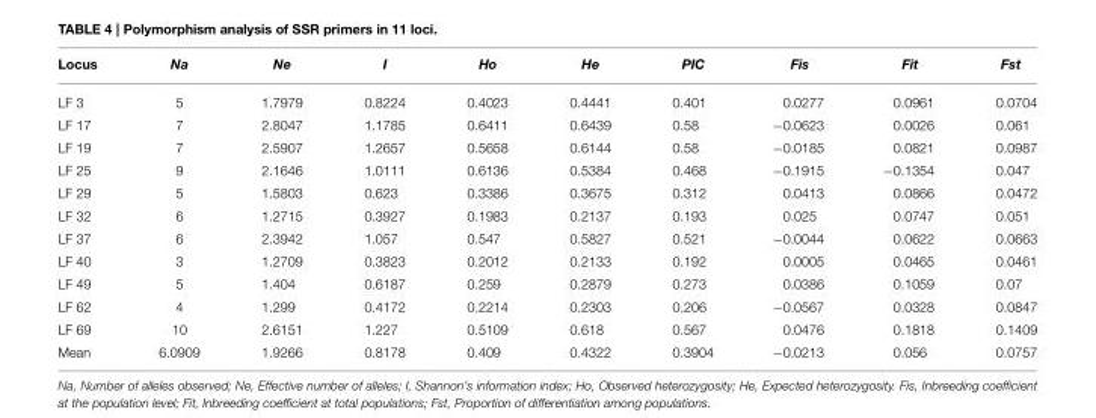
<table><thead><tr><td>Locus</td><td>Na</td><td>Ne</td><td>I</td><td>Ho</td><td>He</td><td>PIC</td><td>Fis</td><td>Fit</td><td>Fst</td></tr></thead><tbody><tr><td>LF 3</td><td>5</td><td>1.7979</td><td>0.8224</td><td>0.4023</td><td>0.4441</td><td>0.401</td><td>0.0277</td><td>0.0961</td><td>0.0704</td></tr><tr><td>LF 17</td><td>7</td><td>2.8047</td><td>1.1785</td><td>0.6411</td><td>0.6439</td><td>0.58</td><td>−0.0623</td><td>0.0026</td><td>0.061</td></tr><tr><td>LF 19</td><td>7</td><td>2.5907</td><td>1.2657</td><td>0.5658</td><td>0.6144</td><td>0.58</td><td>−0.0185</td><td>0.0821</td><td>0.0987</td></tr><tr><td>LF 25</td><td>9</td><td>2.1646</td><td>1.0111</td><td>0.6136</td><td>0.5384</td><td>0.468</td><td>−0.1915</td><td>−0.1354</td><td>0.047</td></tr><tr><td>LF 29</td><td>5</td><td>1.5803</td><td>0.623</td><td>0.3386</td><td>0.3675</td><td>0.312</td><td>0.0413</td><td>0.0866</td><td>0.0472</td></tr><tr><td>LF 32</td><td>6</td><td>1.2715</td><td>0.3927</td><td>0.1983</td><td>0.2137</td><td>0.193</td><td>0.025</td><td>0.0747</td><td>0.051</td></tr><tr><td>LF 37</td><td>6</td><td>2.3942</td><td>1.057</td><td>0.547</td><td>0.5827</td><td>0.521</td><td>−0.0044</td><td>0.0622</td><td>0.0663</td></tr><tr><td>LF 40</td><td>3</td><td>1.2709</td><td>0.3823</td><td>0.2012</td><td>0.2133</td><td>0.192</td><td>0.0005</td><td>0.0465</td><td>0.0461</td></tr><tr><td>LF 49</td><td>5</td><td>1.404</td><td>0.6187</td><td>0.259</td><td>0.2879</td><td>0.273</td><td>0.0386</td><td>0.1059</td><td>0.07</td></tr><tr><td>LF 62</td><td>4</td><td>1.299</td><td>0.4172</td><td>0.2214</td><td>0.2303</td><td>0.206</td><td>−0.0567</td><td>0.0328</td><td>0.0847</td></tr><tr><td>LF 69</td><td>10</td><td>2.6151</td><td>1.227</td><td>0.5109</td><td>0.618</td><td>0.567</td><td>0.0476</td><td>0.1818</td><td>0.1409</td></tr><tr><td>Mean</td><td>6.0909</td><td>1.9266</td><td>0.8178</td><td>0.409</td><td>0.4322</td><td>0.3904</td><td>−0.0213</td><td>0.056</td><td>0.0757</td></tr></tbody></table>